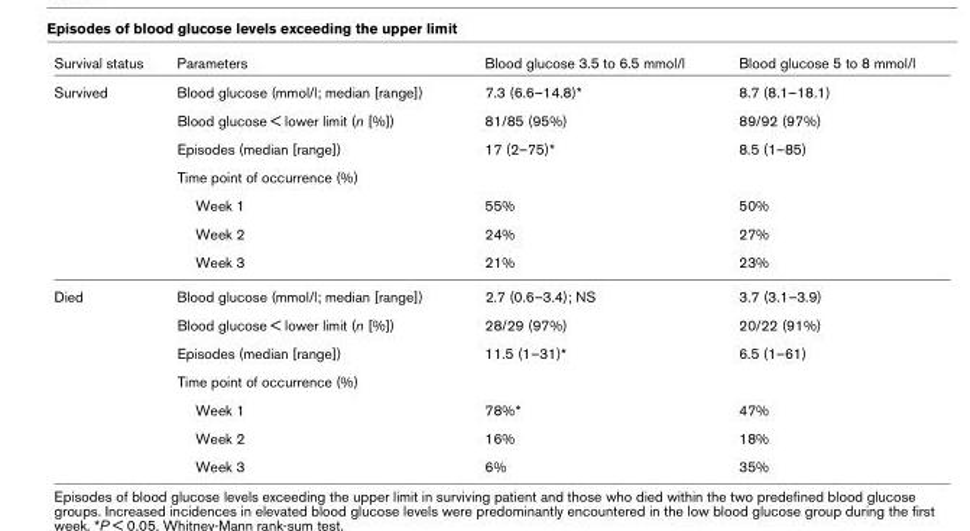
<table><thead><tr><td>Survival status</td><td>Parameters</td><td>Blood glucose 3.5 to 6.5 mmol/l</td><td>Blood glucose 5 to 8 mmol/l</td></tr></thead><tbody><tr><td rowspan="7">Survived</td><td>Blood glucose (mmol/l; median [range])</td><td>7.3 (6.6–14.8)*</td><td>8.7 (8.1–18.1)</td></tr><tr><td>Blood glucose &lt; lower limit (n [%])</td><td>81/85 (95%)</td><td>89/92 (97%)</td></tr><tr><td>Episodes (median [range])</td><td>17 (2–75)*</td><td>8.5 (1–85)</td></tr><tr><td>Time point of occurrence (%)</td><td></td><td></td></tr><tr><td>Week 1</td><td>55%</td><td>50%</td></tr><tr><td>Week 2</td><td>24%</td><td>27%</td></tr><tr><td>Week 3</td><td>21%</td><td>23%</td></tr><tr><td rowspan="7">Died</td><td>Blood glucose (mmol/l; median [range])</td><td>2.7 (0.6–3.4); NS</td><td>3.7 (3.1–3.9)</td></tr><tr><td>Blood glucose &lt; lower limit (n [%])</td><td>28/29 (97%)</td><td>20/22 (91%)</td></tr><tr><td>Episodes (median [range])</td><td>11.5 (1–31)*</td><td>6.5 (1–61)</td></tr><tr><td>Time point of occurrence (%)</td><td></td><td></td></tr><tr><td>Week 1</td><td>78%*</td><td>47%</td></tr><tr><td>Week 2</td><td>16%</td><td>18%</td></tr><tr><td>Week 3</td><td>6%</td><td>35%</td></tr></tbody></table>